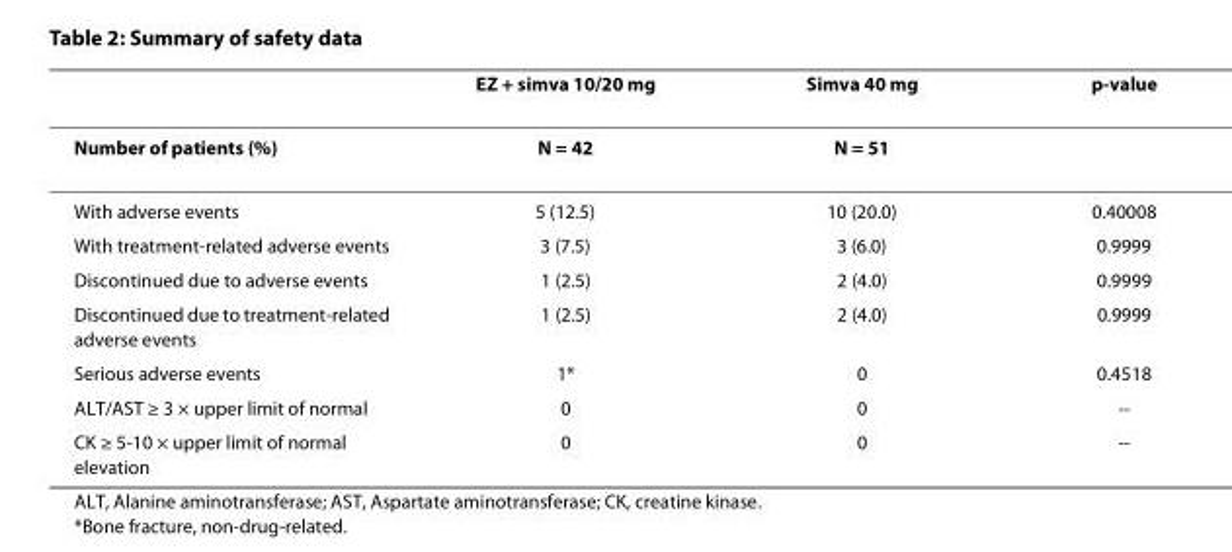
<table><thead><tr><td></td><td>EZ + simva 10/20 mg</td><td>Simva 40 mg</td><td>p-value</td></tr></thead><tbody><tr><td>Number of patients (%)</td><td>N = 42</td><td>N = 51</td><td></td></tr><tr><td>With adverse events</td><td>5 (12.5)</td><td>10 (20.0)</td><td>0.40008</td></tr><tr><td>With treatment-related adverse events</td><td>3 (7.5)</td><td>3 (6.0)</td><td>0.9999</td></tr><tr><td>Discontinued due to adverse events</td><td>1 (2.5)</td><td>2 (4.0)</td><td>0.9999</td></tr><tr><td>Discontinued due to treatment-related adverse events</td><td>1 (2.5)</td><td>2 (4.0)</td><td>0.9999</td></tr><tr><td>Serious adverse events</td><td>1*</td><td>0</td><td>0.4518</td></tr><tr><td>ALT/AST ≥ 3 × upper limit of normal</td><td>0</td><td>0</td><td>--</td></tr><tr><td>CK ≥ 5-10 × upper limit of normal elevation</td><td>0</td><td>0</td><td>--</td></tr></tbody></table>